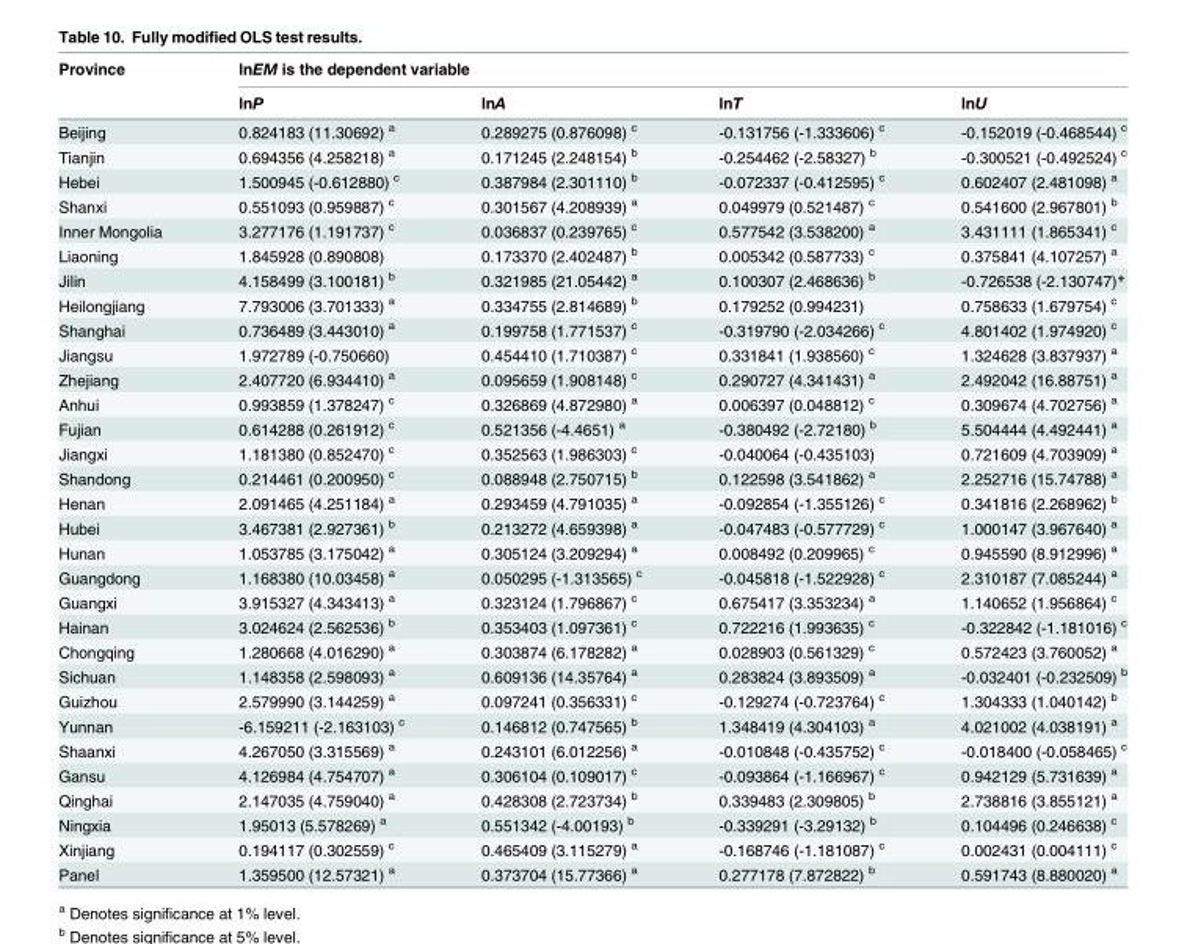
<table><thead><tr><td rowspan="2">Province</td><td colspan="4">lnEM is the dependent variable</td></tr><tr><td>lnP</td><td>lnA</td><td>lnT</td><td>lnU</td></tr></thead><tbody><tr><td>Beijing</td><td>0.824183 (11.30692) <sup>a</sup></td><td>0.289275 (0.876098) <sup>c</sup></td><td>-0.131756 (-1.333606) <sup>c</sup></td><td>-0.152019 (-0.468544) <sup>c</sup></td></tr><tr><td>Tianjin</td><td>0.694356 (4.258218) <sup>a</sup></td><td>0.171245 (2.248154) <sup>b</sup></td><td>-0.254462 (-2.58327) <sup>b</sup></td><td>-0.300521 (-0.492524) <sup>c</sup></td></tr><tr><td>Hebei</td><td>1.500945 (-0.612880) <sup>c</sup></td><td>0.387984 (2.301110) <sup>b</sup></td><td>-0.072337 (-0.412595) <sup>c</sup></td><td>0.602407 (2.481098) <sup>a</sup></td></tr><tr><td>Shanxi</td><td>0.551093 (0.959887) <sup>c</sup></td><td>0.301567 (4.208939) <sup>a</sup></td><td>0.049979 (0.521487) <sup>c</sup></td><td>0.541600 (2.967801) <sup>b</sup></td></tr><tr><td>Inner Mongolia</td><td>3.277176 (1.191737) <sup>c</sup></td><td>0.036837 (0.239765) <sup>c</sup></td><td>0.577542 (3.538200) <sup>a</sup></td><td>3.431111 (1.865341) <sup>c</sup></td></tr><tr><td>Liaoning</td><td>1.845928 (0.890808)</td><td>0.173370 (2.402487) <sup>b</sup></td><td>0.005342 (0.587733) <sup>c</sup></td><td>0.375841 (4.107257) <sup>a</sup></td></tr><tr><td>Jilin</td><td>4.158499 (3.100181) <sup>b</sup></td><td>0.321985 (21.05442) <sup>a</sup></td><td>0.100307 (2.468636) <sup>b</sup></td><td>-0.726538 (-2.130747)*</td></tr><tr><td>Heilongjiang</td><td>7.793006 (3.701333) <sup>a</sup></td><td>0.334755 (2.814689) <sup>b</sup></td><td>0.179252 (0.994231)</td><td>0.758633 (1.679754) <sup>c</sup></td></tr><tr><td>Shanghai</td><td>0.736489 (3.443010) <sup>a</sup></td><td>0.199758 (1.771537) <sup>c</sup></td><td>-0.319790 (-2.034266) <sup>c</sup></td><td>4.801402 (1.974920) <sup>c</sup></td></tr><tr><td>Jiangsu</td><td>1.972789 (-0.750660)</td><td>0.454410 (1.710387) <sup>c</sup></td><td>0.331841 (1.938560) <sup>c</sup></td><td>1.324628 (3.837937) <sup>a</sup></td></tr><tr><td>Zhejiang</td><td>2.407720 (6.934410) <sup>a</sup></td><td>0.095659 (1.908148) <sup>c</sup></td><td>0.290727 (4.341431) <sup>a</sup></td><td>2.492042 (16.88751) <sup>a</sup></td></tr><tr><td>Anhui</td><td>0.993859 (1.378247) <sup>c</sup></td><td>0.326869 (4.872980) <sup>a</sup></td><td>0.006397 (0.048812) <sup>c</sup></td><td>0.309674 (4.702756) <sup>a</sup></td></tr><tr><td>Fujian</td><td>0.614288 (0.261912) <sup>c</sup></td><td>0.521356 (-4.4651) <sup>a</sup></td><td>-0.380492 (-2.72180) <sup>b</sup></td><td>5.504444 (4.492441) <sup>a</sup></td></tr><tr><td>Jiangxi</td><td>1.181380 (0.852470) <sup>c</sup></td><td>0.352563 (1.986303) <sup>c</sup></td><td>-0.040064 (-0.435103)</td><td>0.721609 (4.703909) <sup>a</sup></td></tr><tr><td>Shandong</td><td>0.214461 (0.200950) <sup>c</sup></td><td>0.088948 (2.750715) <sup>b</sup></td><td>0.122598 (3.541862) <sup>a</sup></td><td>2.252716 (15.74788) <sup>a</sup></td></tr><tr><td>Henan</td><td>2.091465 (4.251184) <sup>a</sup></td><td>0.293459 (4.791035) <sup>a</sup></td><td>-0.092854 (-1.355126) <sup>c</sup></td><td>0.341816 (2.268962) <sup>b</sup></td></tr><tr><td>Hubei</td><td>3.467381 (2.927361) <sup>b</sup></td><td>0.213272 (4.659398) <sup>a</sup></td><td>-0.047483 (-0.577729) <sup>c</sup></td><td>1.000147 (3.967640) <sup>a</sup></td></tr><tr><td>Hunan</td><td>1.053785 (3.175042) <sup>a</sup></td><td>0.305124 (3.209294) <sup>a</sup></td><td>0.008492 (0.209965) <sup>c</sup></td><td>0.945590 (8.912996) <sup>a</sup></td></tr><tr><td>Guangdong</td><td>1.168380 (10.03458) <sup>a</sup></td><td>0.050295 (-1.313565) <sup>c</sup></td><td>-0.045818 (-1.522928) <sup>c</sup></td><td>2.310187 (7.085244) <sup>a</sup></td></tr><tr><td>Guangxi</td><td>3.915327 (4.343413) <sup>a</sup></td><td>0.323124 (1.796867) <sup>c</sup></td><td>0.675417 (3.353234) <sup>a</sup></td><td>1.140652 (1.956864) <sup>c</sup></td></tr><tr><td>Hainan</td><td>3.024624 (2.562536) <sup>b</sup></td><td>0.353403 (1.097361) <sup>c</sup></td><td>0.722216 (1.993635) <sup>c</sup></td><td>-0.322842 (-1.181016) <sup>c</sup></td></tr><tr><td>Chongqing</td><td>1.280668 (4.016290) <sup>a</sup></td><td>0.303874 (6.178282) <sup>a</sup></td><td>0.028903 (0.561329) <sup>c</sup></td><td>0.572423 (3.760052) <sup>a</sup></td></tr><tr><td>Sichuan</td><td>1.148358 (2.598093) <sup>a</sup></td><td>0.609136 (14.35764) <sup>a</sup></td><td>0.283824 (3.893509) <sup>a</sup></td><td>-0.032401 (-0.232509) <sup>b</sup></td></tr><tr><td>Guizhou</td><td>2.579990 (3.144259) <sup>a</sup></td><td>0.097241 (0.356331) <sup>c</sup></td><td>-0.129274 (-0.723764) <sup>c</sup></td><td>1.304333 (1.040142) <sup>b</sup></td></tr><tr><td>Yunnan</td><td>-6.159211 (-2.163103) <sup>c</sup></td><td>0.146812 (0.747565) <sup>b</sup></td><td>1.348419 (4.304103) <sup>a</sup></td><td>4.021002 (4.038191) <sup>a</sup></td></tr><tr><td>Shaanxi</td><td>4.267050 (3.315569) <sup>a</sup></td><td>0.243101 (6.012256) <sup>a</sup></td><td>-0.010848 (-0.435752) <sup>c</sup></td><td>-0.018400 (-0.058465) <sup>c</sup></td></tr><tr><td>Gansu</td><td>4.126984 (4.754707) <sup>a</sup></td><td>0.306104 (0.109017) <sup>c</sup></td><td>-0.093864 (-1.166967) <sup>c</sup></td><td>0.942129 (5.731639) <sup>a</sup></td></tr><tr><td>Qinghai</td><td>2.147035 (4.759040) <sup>a</sup></td><td>0.428308 (2.723734) <sup>b</sup></td><td>0.339483 (2.309805) <sup>b</sup></td><td>2.738816 (3.855121) <sup>a</sup></td></tr><tr><td>Ningxia</td><td>1.95013 (5.578269) <sup>a</sup></td><td>0.551342 (-4.00193) <sup>b</sup></td><td>-0.339291 (-3.29132) <sup>b</sup></td><td>0.104496 (0.246638) <sup>c</sup></td></tr><tr><td>Xinjiang</td><td>0.194117 (0.302559) <sup>c</sup></td><td>0.465409 (3.115279) <sup>a</sup></td><td>-0.168746 (-1.181087) <sup>c</sup></td><td>0.002431 (0.004111) <sup>c</sup></td></tr><tr><td>Panel</td><td>1.359500 (12.57321) <sup>a</sup></td><td>0.373704 (15.77366) <sup>a</sup></td><td>0.277178 (7.872822) <sup>b</sup></td><td>0.591743 (8.880020) <sup>a</sup></td></tr></tbody></table>